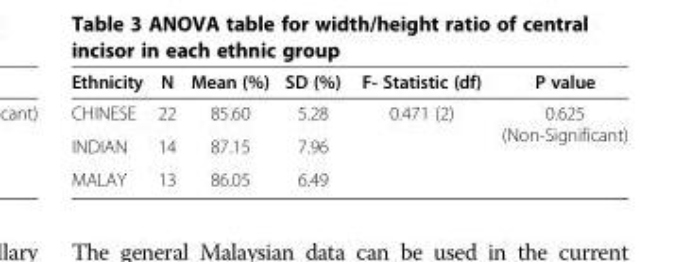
<table><thead><tr><td>Ethnicity</td><td>N</td><td>Mean (%)</td><td>SD (%)</td><td>F- Statistic (df)</td><td>P value</td></tr></thead><tbody><tr><td>CHINESE</td><td>22</td><td>85.60</td><td>5.28</td><td rowspan="2">0.471 (2)</td><td rowspan="2">0.625 (Non-Significant)</td></tr><tr><td>INDIAN</td><td>14</td><td>87.15</td><td>7.96</td></tr><tr><td>MALAY</td><td>13</td><td>86.05</td><td>6.49</td><td></td><td></td></tr></tbody></table>